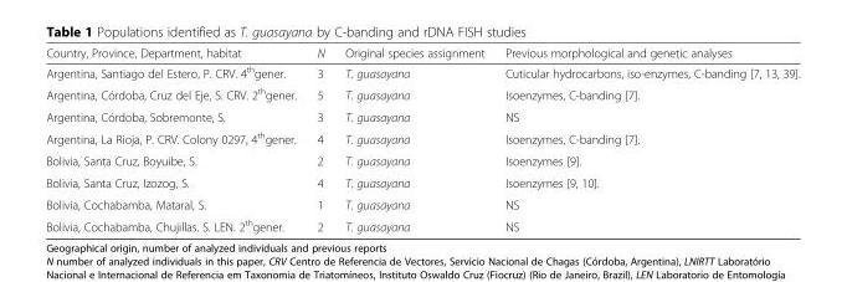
<table><thead><tr><td>Country, Province, Department, habitat</td><td>N</td><td>Original species assignment</td><td>Previous morphological and genetic analyses</td></tr></thead><tbody><tr><td>Argentina, Santiago del Estero, P. CRV. 4<sup>th</sup>gener.</td><td>3</td><td>T. guasayana</td><td>Cuticular hydrocarbons, iso-enzymes, C-banding [7, 13, 39].</td></tr><tr><td>Argentina, Córdoba, Cruz del Eje, S. CRV. 2<sup>th</sup>gener.</td><td>5</td><td>T. guasayana</td><td>Isoenzymes, C-banding [7].</td></tr><tr><td>Argentina, Córdoba, Sobremonte, S.</td><td>3</td><td>T. guasayana</td><td>NS</td></tr><tr><td>Argentina, La Rioja, P. CRV. Colony 0297, 4<sup>th</sup>gener.</td><td>4</td><td>T. guasayana</td><td>Isoenzymes, C-banding [7].</td></tr><tr><td>Bolivia, Santa Cruz, Boyuibe, S.</td><td>2</td><td>T. guasayana</td><td>Isoenzymes [9].</td></tr><tr><td>Bolivia, Santa Cruz, Izozog, S.</td><td>4</td><td>T. guasayana</td><td>Isoenzymes [9, 10].</td></tr><tr><td>Bolivia, Cochabamba, Mataral, S.</td><td>1</td><td>T. guasayana</td><td>NS</td></tr><tr><td>Bolivia, Cochabamba, Chujillas. S. LEN. 2<sup>th</sup>gener.</td><td>2</td><td>T. guasayana</td><td>NS</td></tr></tbody></table>